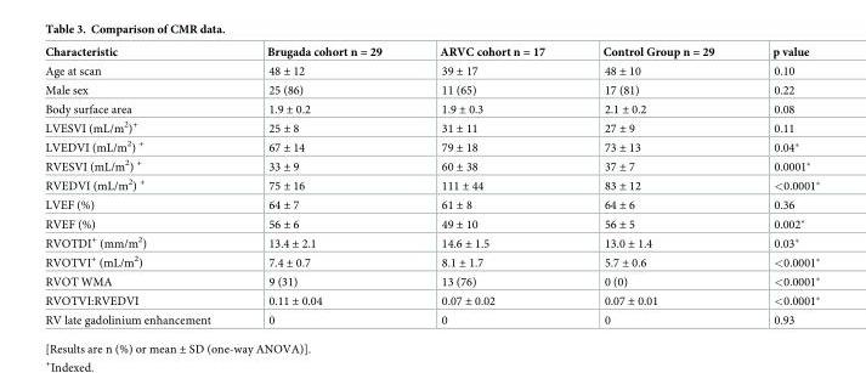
<table><thead><tr><td>Characteristic</td><td>Brugada cohort n = 29</td><td>ARVC cohort n = 17</td><td>Control Group n = 29</td><td>p value</td></tr></thead><tbody><tr><td>Age at scan</td><td>48 ± 12</td><td>39 ± 17</td><td>48 ± 10</td><td>0.10</td></tr><tr><td>Male sex</td><td>25 (86)</td><td>11 (65)</td><td>17 (81)</td><td>0.22</td></tr><tr><td>Body surface area</td><td>1.9 ± 0.2</td><td>1.9 ± 0.3</td><td>2.1 ± 0.2</td><td>0.08</td></tr><tr><td>LVESVI (mL/m<sup>2</sup>)<sup>+</sup></td><td>25 ± 8</td><td>31 ± 11</td><td>27 ± 9</td><td>0.11</td></tr><tr><td>LVEDVI (mL/m<sup>2</sup>) <sup>+</sup></td><td>67 ± 14</td><td>79 ± 18</td><td>73 ± 13</td><td>0.04*</td></tr><tr><td>RVESVI (mL/m<sup>2</sup>) <sup>+</sup></td><td>33 ± 9</td><td>60 ± 38</td><td>37 ± 7</td><td>0.0001*</td></tr><tr><td>RVEDVI (mL/m<sup>2</sup>) <sup>+</sup></td><td>75 ± 16</td><td>111 ± 44</td><td>83 ± 12</td><td>&lt;0.0001*</td></tr><tr><td>LVEF (%)</td><td>64 ± 7</td><td>61 ± 8</td><td>64 ± 6</td><td>0.36</td></tr><tr><td>RVEF (%)</td><td>56 ± 6</td><td>49 ± 10</td><td>56 ± 5</td><td>0.002*</td></tr><tr><td>RVOTDI<sup>+</sup> (mm/m<sup>2</sup>)</td><td>13.4 ± 2.1</td><td>14.6 ± 1.5</td><td>13.0 ± 1.4</td><td>0.03*</td></tr><tr><td>RVOTVI<sup>+</sup> (mL/m<sup>2</sup>)</td><td>7.4 ± 0.7</td><td>8.1 ± 1.7</td><td>5.7 ± 0.6</td><td>&lt;0.0001*</td></tr><tr><td>RVOT WMA</td><td>9 (31)</td><td>13 (76)</td><td>0 (0)</td><td>&lt;0.0001*</td></tr><tr><td>RVOTVI:RVEDVI</td><td>0.11 ± 0.04</td><td>0.07 ± 0.02</td><td>0.07 ± 0.01</td><td>&lt;0.0001*</td></tr><tr><td>RV late gadolinium enhancement</td><td>0</td><td>0</td><td>0</td><td>0.93</td></tr></tbody></table>